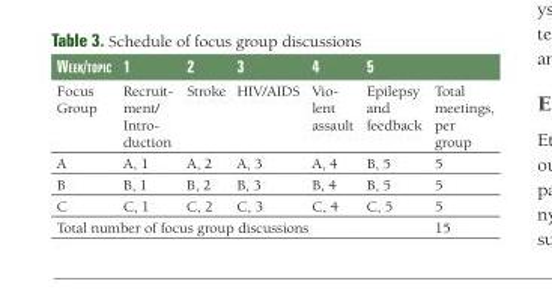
<table><thead><tr><td rowspan="2">Week/topic Focus Group</td><td rowspan="2">1 Recruit- ment/ Intro- duction</td><td rowspan="2">2 Stroke</td><td rowspan="2">3 HIV/AIDS</td><td rowspan="2">4 Vio- lent assault</td><td rowspan="2">5 Epilepsy and feedback</td><td rowspan="2">Total meetings, per group</td></tr><tr></tr></thead><tbody><tr><td>A</td><td>A, 1</td><td>A, 2</td><td>A, 3</td><td>A, 4</td><td>B, 5</td><td>5</td></tr><tr><td>B</td><td>B, 1</td><td>B, 2</td><td>B, 3</td><td>B, 4</td><td>B, 5</td><td>5</td></tr><tr><td>C</td><td>C, 1</td><td>C, 2</td><td>C, 3</td><td>C, 4</td><td>C, 5</td><td>5</td></tr><tr><td colspan="6">Total number of focus group discussions</td><td>15</td></tr></tbody></table>